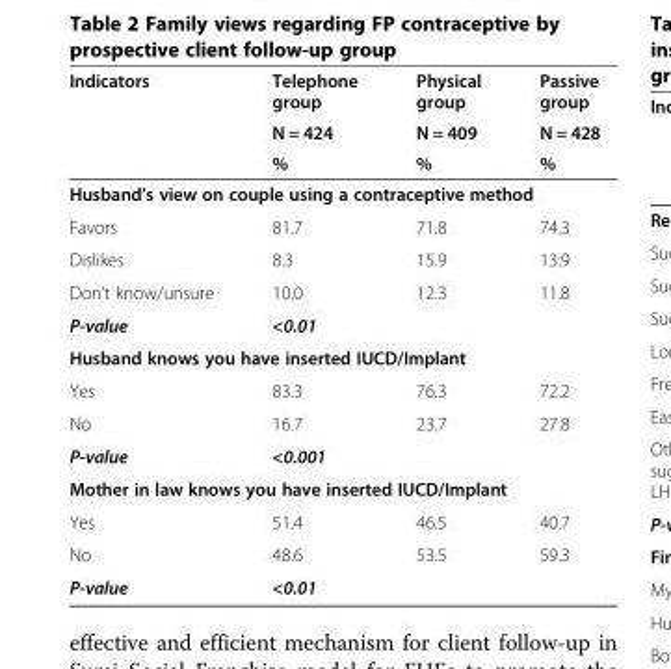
<table><thead><tr><td rowspan="3">Indicators</td><td rowspan="3">Telephone group N = 424 %</td><td rowspan="3">Physical group N = 409 %</td><td rowspan="3">Passive group N = 428 %</td></tr><tr></tr><tr></tr></thead><tbody><tr><td colspan="4">Husband’s view on couple using a contraceptive method</td></tr><tr><td>Favors</td><td>81.7</td><td>71.8</td><td>74.3</td></tr><tr><td>Dislikes</td><td>8.3</td><td>15.9</td><td>13.9</td></tr><tr><td>Don’t know/unsure</td><td>10.0</td><td>12.3</td><td>11.8</td></tr><tr><td>P-value</td><td colspan="3">&lt;0.01</td></tr><tr><td colspan="4">Husband knows you have inserted IUCD/Implant</td></tr><tr><td>Yes</td><td>83.3</td><td>76.3</td><td>72.2</td></tr><tr><td>No</td><td>16.7</td><td>23.7</td><td>27.8</td></tr><tr><td>P-value</td><td colspan="3">&lt;0.001</td></tr><tr><td colspan="4">Mother in law knows you have inserted IUCD/Implant</td></tr><tr><td>Yes</td><td>51.4</td><td>46.5</td><td>40.7</td></tr><tr><td>No</td><td>48.6</td><td>53.5</td><td>59.3</td></tr><tr><td>P-value</td><td colspan="3">&lt;0.01</td></tr></tbody></table>